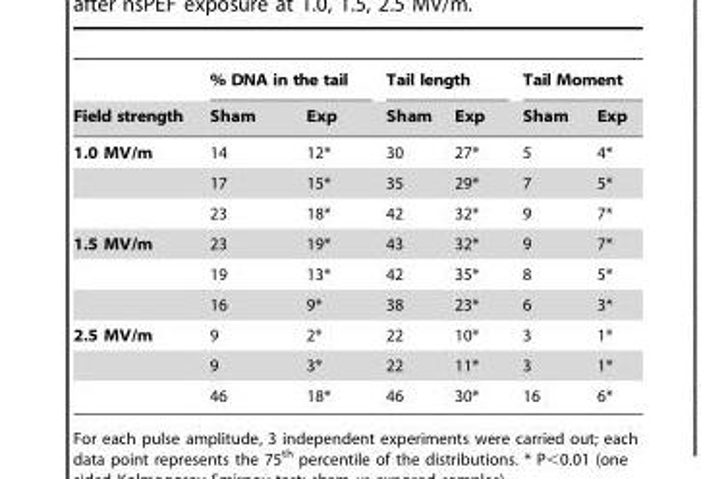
<table><thead><tr><td rowspan="2">Field strength</td><td colspan="2">% DNA in the tail</td><td colspan="2">Tail length</td><td colspan="2">Tail Moment</td></tr><tr><td>Sham</td><td>Exp</td><td>Sham</td><td>Exp</td><td>Sham</td><td>Exp</td></tr></thead><tbody><tr><td rowspan="3">1.0 MV/m</td><td>14</td><td>12*</td><td>30</td><td>27*</td><td>5</td><td>4*</td></tr><tr><td>17</td><td>15*</td><td>35</td><td>29*</td><td>7</td><td>5*</td></tr><tr><td>23</td><td>18*</td><td>42</td><td>32*</td><td>9</td><td>7*</td></tr><tr><td rowspan="3">1.5 MV/m</td><td>23</td><td>19*</td><td>43</td><td>32*</td><td>9</td><td>7*</td></tr><tr><td>19</td><td>13*</td><td>42</td><td>35*</td><td>8</td><td>5*</td></tr><tr><td>16</td><td>9*</td><td>38</td><td>23*</td><td>6</td><td>3*</td></tr><tr><td rowspan="3">2.5 MV/m</td><td>9</td><td>2*</td><td>22</td><td>10*</td><td>3</td><td>1*</td></tr><tr><td>9</td><td>3*</td><td>22</td><td>11*</td><td>3</td><td>1*</td></tr><tr><td>46</td><td>18*</td><td>46</td><td>30*</td><td>16</td><td>6*</td></tr></tbody></table>